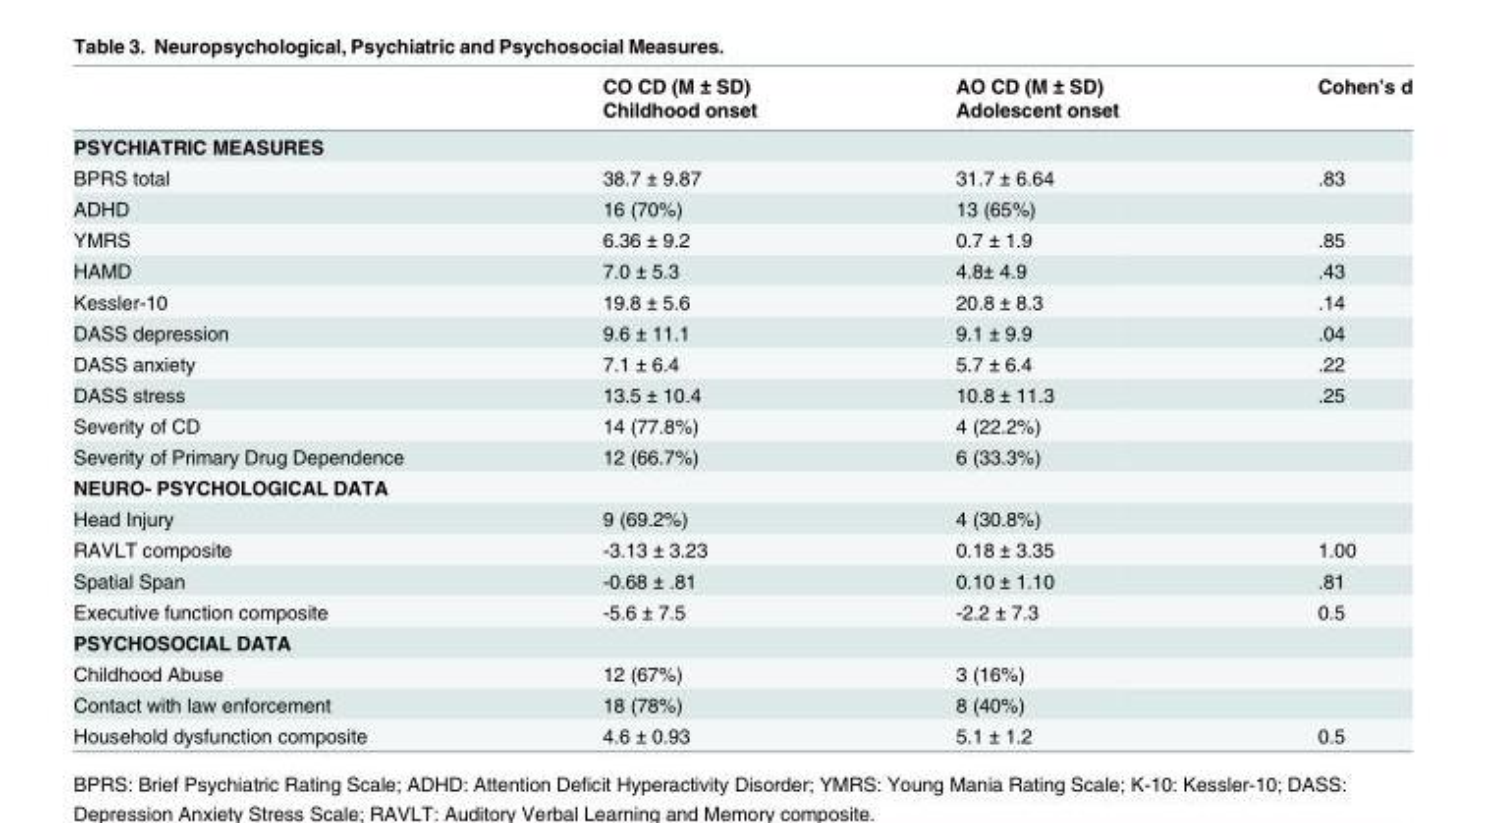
<table><thead><tr><td rowspan="2"></td><td rowspan="2">CO CD (M ± SD) Childhood onset</td><td rowspan="2">AO CD (M ± SD) Adolescent onset</td><td rowspan="2">Cohen’s d</td></tr><tr></tr></thead><tbody><tr><td colspan="4">PSYCHIATRIC MEASURES</td></tr><tr><td>BPRS total</td><td>38.7 ± 9.87</td><td>31.7 ± 6.64</td><td>.83</td></tr><tr><td>ADHD</td><td>16 (70%)</td><td>13 (65%)</td><td></td></tr><tr><td>YMRS</td><td>6.36 ± 9.2</td><td>0.7 ± 1.9</td><td>.85</td></tr><tr><td>HAMD</td><td>7.0 ± 5.3</td><td>4.8± 4.9</td><td>.43</td></tr><tr><td>Kessler-10</td><td>19.8 ± 5.6</td><td>20.8 ± 8.3</td><td>.14</td></tr><tr><td>DASS depression</td><td>9.6 ± 11.1</td><td>9.1 ± 9.9</td><td>.04</td></tr><tr><td>DASS anxiety</td><td>7.1 ± 6.4</td><td>5.7 ± 6.4</td><td>.22</td></tr><tr><td>DASS stress</td><td>13.5 ± 10.4</td><td>10.8 ± 11.3</td><td>.25</td></tr><tr><td>Severity of CD</td><td>14 (77.8%)</td><td>4 (22.2%)</td><td></td></tr><tr><td>Severity of Primary Drug Dependence</td><td>12 (66.7%)</td><td>6 (33.3%)</td><td></td></tr><tr><td colspan="4">NEURO- PSYCHOLOGICAL DATA</td></tr><tr><td>Head Injury</td><td>9 (69.2%)</td><td>4 (30.8%)</td><td></td></tr><tr><td>RAVLT composite</td><td>-3.13 ± 3.23</td><td>0.18 ± 3.35</td><td>1.00</td></tr><tr><td>Spatial Span</td><td>-0.68 ± .81</td><td>0.10 ± 1.10</td><td>.81</td></tr><tr><td>Executive function composite</td><td>-5.6 ± 7.5</td><td>-2.2 ± 7.3</td><td>0.5</td></tr><tr><td colspan="4">PSYCHOSOCIAL DATA</td></tr><tr><td>Childhood Abuse</td><td>12 (67%)</td><td>3 (16%)</td><td></td></tr><tr><td>Contact with law enforcement</td><td>18 (78%)</td><td>8 (40%)</td><td></td></tr><tr><td>Household dysfunction composite</td><td>4.6 ± 0.93</td><td>5.1 ± 1.2</td><td>0.5</td></tr></tbody></table>